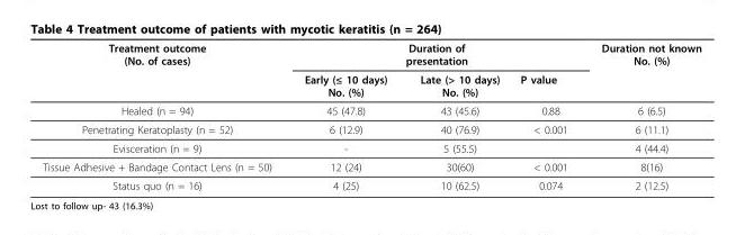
<table><thead><tr><td rowspan="2">Treatment outcome (No. of cases)</td><td colspan="3">Duration of presentation</td><td rowspan="2">Duration not known No. (%)</td></tr><tr><td>Early (≤ 10 days) No. (%)</td><td>Late (&gt; 10 days) No. (%)</td><td>P value</td></tr></thead><tbody><tr><td>Healed (n = 94)</td><td>45 (47.8)</td><td>43 (45.6)</td><td>0.88</td><td>6 (6.5)</td></tr><tr><td>Penetrating Keratoplasty (n = 52)</td><td>6 (12.9)</td><td>40 (76.9)</td><td>&lt; 0.001</td><td>6 (11.1)</td></tr><tr><td>Evisceration (n = 9)</td><td>-</td><td>5 (55.5)</td><td></td><td>4 (44.4)</td></tr><tr><td>Tissue Adhesive + Bandage Contact Lens (n = 50)</td><td>12 (24)</td><td>30(60)</td><td>&lt; 0.001</td><td>8(16)</td></tr><tr><td>Status quo (n = 16)</td><td>4 (25)</td><td>10 (62.5)</td><td>0.074</td><td>2 (12.5)</td></tr></tbody></table>